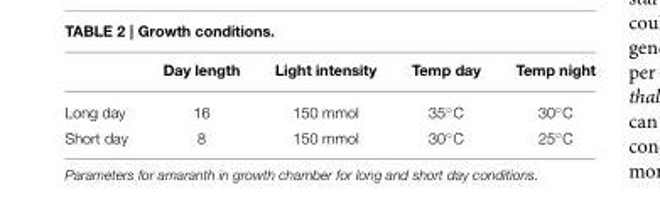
<table><thead><tr><td></td><td>Day length</td><td>Light intensity</td><td>Temp day</td><td>Temp night</td></tr></thead><tbody><tr><td>Long day</td><td>16</td><td>150 mmol</td><td>35◦C</td><td>30◦C</td></tr><tr><td>Short day</td><td>8</td><td>150 mmol</td><td>30◦C</td><td>25◦C</td></tr></tbody></table>